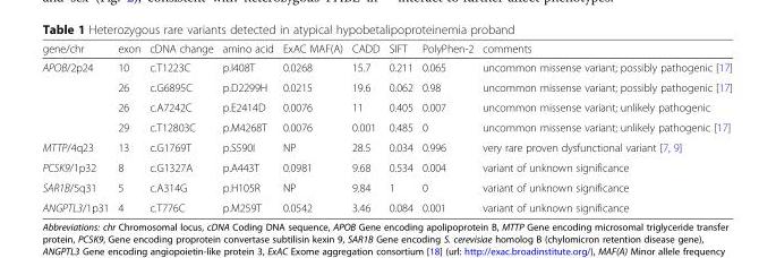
<table><thead><tr><td>gene/chr</td><td>exon</td><td>cDNA change</td><td>amino acid</td><td>ExAC MAF(A)</td><td>CADD</td><td>SIFT</td><td>PolyPhen-2</td><td>comments</td></tr></thead><tbody><tr><td rowspan="4">APOB/2p24</td><td>10</td><td>c.T1223C</td><td>p.I408T</td><td>0.0268</td><td>15.7</td><td>0.211</td><td>0.065</td><td>uncommon missense variant; possibly pathogenic [17]</td></tr><tr><td>26</td><td>c.G6895C</td><td>p.D2299H</td><td>0.0215</td><td>19.6</td><td>0.062</td><td>0.98</td><td>uncommon missense variant; possibly pathogenic [17]</td></tr><tr><td>26</td><td>c.A7242C</td><td>p.E2414D</td><td>0.0076</td><td>11</td><td>0.405</td><td>0.007</td><td>uncommon missense variant; unlikely pathogenic</td></tr><tr><td>29</td><td>c.T12803C</td><td>p.M4268T</td><td>0.0076</td><td>0.001</td><td>0.485</td><td>0</td><td>uncommon missense variant; unlikely pathogenic [17]</td></tr><tr><td>MTTP/4q23</td><td>13</td><td>c.G1769T</td><td>p.S590I</td><td>NP</td><td>28.5</td><td>0.034</td><td>0.996</td><td>very rare proven dysfunctional variant [7, 9]</td></tr><tr><td>PCSK9/1p32</td><td>8</td><td>c.G1327A</td><td>p.A443T</td><td>0.0981</td><td>9.68</td><td>0.534</td><td>0.004</td><td>variant of unknown significance</td></tr><tr><td>SAR1B/5q31</td><td>5</td><td>c.A314G</td><td>p.H105R</td><td>NP</td><td>9.84</td><td>1</td><td>0</td><td>variant of unknown significance</td></tr><tr><td>ANGPTL3/1p31</td><td>4</td><td>c.T776C</td><td>p.M259T</td><td>0.0542</td><td>3.46</td><td>0.084</td><td>0.001</td><td>variant of unknown significance</td></tr></tbody></table>